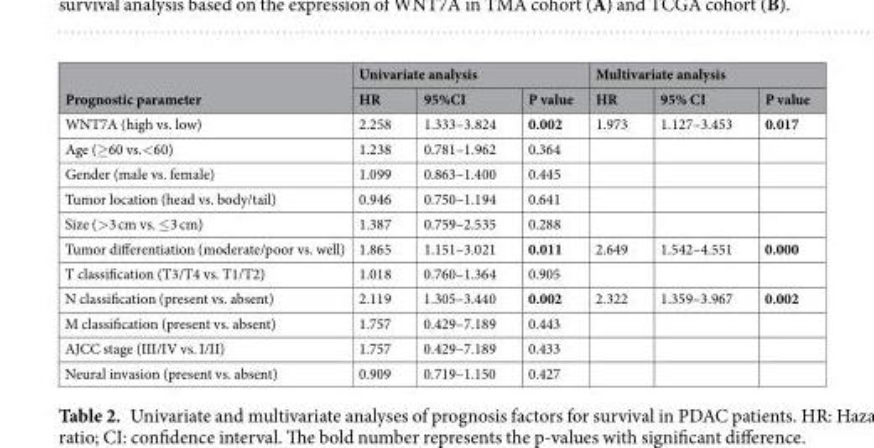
<table><thead><tr><td rowspan="2">Prognostic parameter</td><td colspan="3">Univariate analysis</td><td colspan="3">Multivariate analysis</td></tr><tr><td>HR</td><td>95%CI</td><td>P value</td><td>HR</td><td>95% CI</td><td>P value</td></tr></thead><tbody><tr><td>WNT7A (high vs. low)</td><td>2.258</td><td>1.333–3.824</td><td>0.002</td><td>1.973</td><td>1.127–3.453</td><td>0.017</td></tr><tr><td>Age (≥60 vs.&lt;60)</td><td>1.238</td><td>0.781–1.962</td><td>0.364</td><td></td><td></td><td></td></tr><tr><td>Gender (male vs. female)</td><td>1.099</td><td>0.863–1.400</td><td>0.445</td><td></td><td></td><td></td></tr><tr><td>Tumor location (head vs. body/tail)</td><td>0.946</td><td>0.750–1.194</td><td>0.641</td><td></td><td></td><td></td></tr><tr><td>Size (&gt;3 cm vs. ≤3 cm)</td><td>1.387</td><td>0.759–2.535</td><td>0.288</td><td></td><td></td><td></td></tr><tr><td>Tumor differentiation (moderate/poor vs. well)</td><td>1.865</td><td>1.151–3.021</td><td>0.011</td><td>2.649</td><td>1.542–4.551</td><td>0.000</td></tr><tr><td>T classification (T3/T4 vs. T1/T2)</td><td>1.018</td><td>0.760–1.364</td><td>0.905</td><td></td><td></td><td></td></tr><tr><td>N classification (present vs. absent)</td><td>2.119</td><td>1.305–3.440</td><td>0.002</td><td>2.322</td><td>1.359–3.967</td><td>0.002</td></tr><tr><td>M classification (present vs. absent)</td><td>1.757</td><td>0.429–7.189</td><td>0.443</td><td></td><td></td><td></td></tr><tr><td>AJCC stage (III/IV vs. I/II)</td><td>1.757</td><td>0.429–7.189</td><td>0.433</td><td></td><td></td><td></td></tr><tr><td>Neural invasion (present vs. absent)</td><td>0.909</td><td>0.719–1.150</td><td>0.427</td><td></td><td></td><td></td></tr></tbody></table>